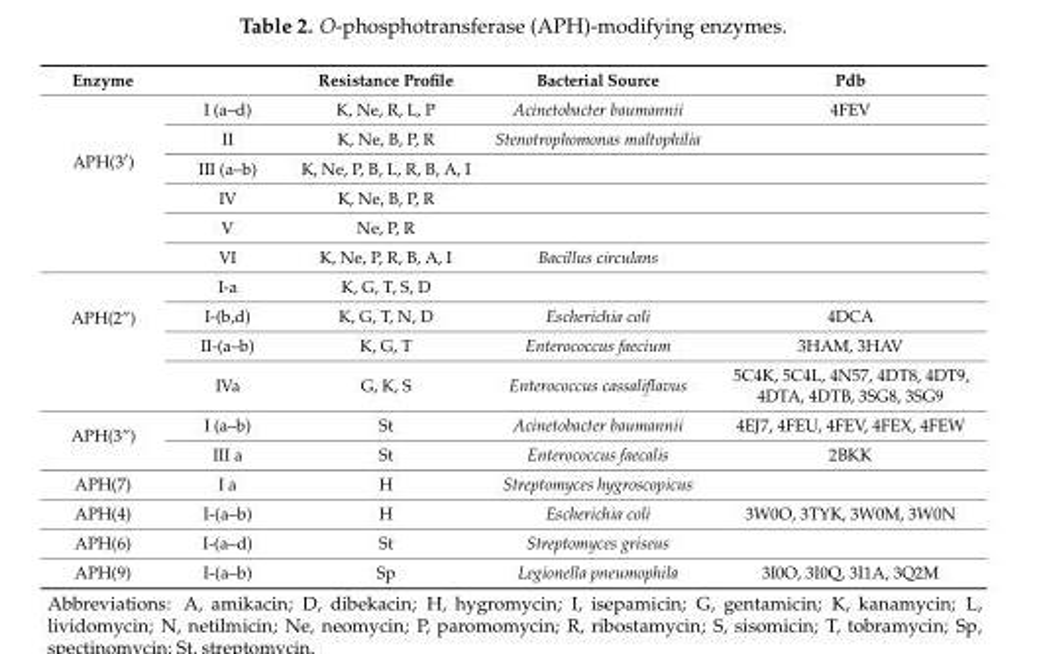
<table><thead><tr><td>Enzyme</td><td></td><td>Resistance Profile</td><td>Bacterial Source</td><td>Pdb</td></tr></thead><tbody><tr><td rowspan="6">APH(3′)</td><td>I (a–d)</td><td>K, Ne, R, L, P</td><td>Acinetobacter baumannii</td><td>4FEV</td></tr><tr><td>II</td><td>K, Ne, B, P, R</td><td>Stenotrophomonas maltophilia</td><td></td></tr><tr><td>III (a–b)</td><td>K, Ne, P, B, L, R, B, A, I</td><td></td><td></td></tr><tr><td>IV</td><td>K, Ne, B, P, R</td><td></td><td></td></tr><tr><td>V</td><td>Ne, P, R</td><td></td><td></td></tr><tr><td>VI</td><td>K, Ne, P, R, B, A, I</td><td>Bacillus circulans</td><td></td></tr><tr><td rowspan="4">APH(2”)</td><td>I-a</td><td>K, G, T, S, D</td><td></td><td></td></tr><tr><td>I-(b,d)</td><td>K, G, T, N, D</td><td>Escherichia coli</td><td>4DCA</td></tr><tr><td>II-(a–b)</td><td>K, G, T</td><td>Enterococcus faecium</td><td>3HAM, 3HAV</td></tr><tr><td>IVa</td><td>G, K, S</td><td>Enterococcus cassaliflavus</td><td>5C4K, 5C4L, 4N57, 4DT8, 4DT9, 4DTA, 4DTB, 3SG8, 3SG9</td></tr><tr><td rowspan="2">APH(3”)</td><td>I (a–b)</td><td>St</td><td>Acinetobacter baumannii</td><td>4EJ7, 4FEU, 4FEV, 4FEX, 4FEW</td></tr><tr><td>III a</td><td>St</td><td>Enterococcus faecalis</td><td>2BKK</td></tr><tr><td>APH(7)</td><td>I a</td><td>H</td><td>Streptomyces hygroscopicus</td><td></td></tr><tr><td>APH(4)</td><td>I-(a–b)</td><td>H</td><td>Escherichia coli</td><td>3W0O, 3TYK, 3W0M, 3W0N</td></tr><tr><td>APH(6)</td><td>I-(a–d)</td><td>St</td><td>Streptomyces griseus</td><td></td></tr><tr><td>APH(9)</td><td>I-(a–b)</td><td>Sp</td><td>Legionella pneumophila</td><td>3I0O, 3I0Q, 3I1A, 3Q2M</td></tr></tbody></table>